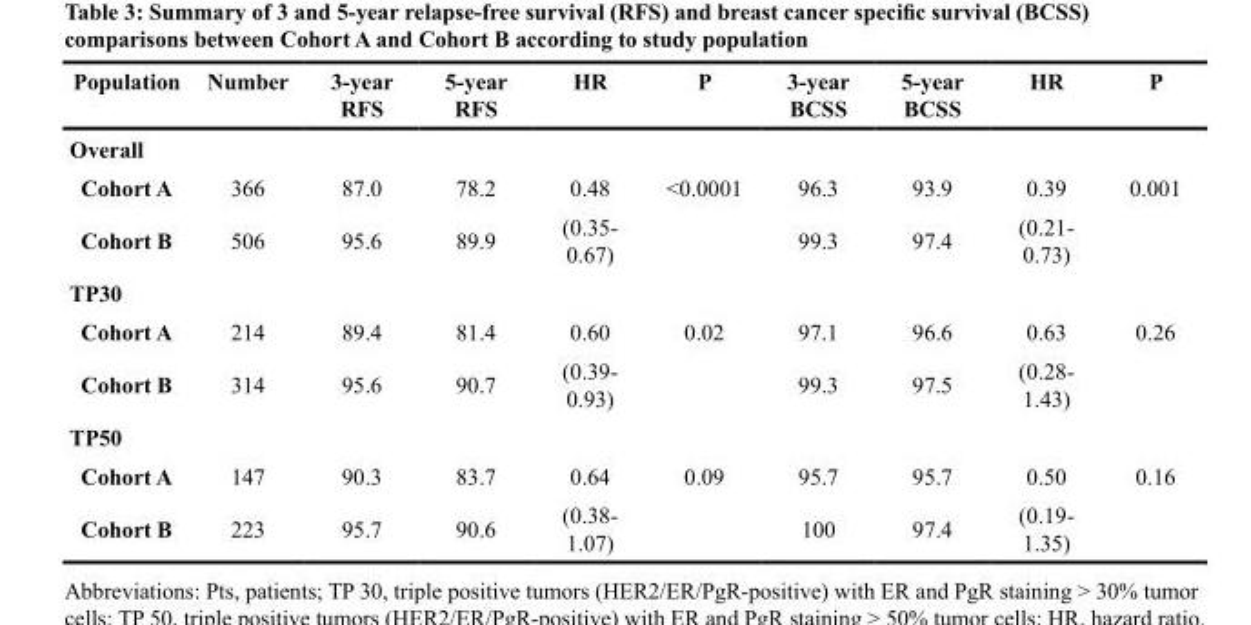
<table><thead><tr><td>Population</td><td>Number</td><td>3-year RFS</td><td>5-year RFS</td><td>HR</td><td>P</td><td>3-year BCSS</td><td>5-year BCSS</td><td>HR</td><td>P</td></tr></thead><tbody><tr><td colspan="10">Overall</td></tr><tr><td>Cohort A</td><td>366</td><td>87.0</td><td>78.2</td><td>0.48</td><td>&lt;0.0001</td><td>96.3</td><td>93.9</td><td>0.39</td><td>0.001</td></tr><tr><td>Cohort B</td><td>506</td><td>95.6</td><td>89.9</td><td>(0.35- 0.67)</td><td></td><td>99.3</td><td>97.4</td><td>(0.21- 0.73)</td><td></td></tr><tr><td colspan="10">TP30</td></tr><tr><td>Cohort A</td><td>214</td><td>89.4</td><td>81.4</td><td>0.60</td><td>0.02</td><td>97.1</td><td>96.6</td><td>0.63</td><td>0.26</td></tr><tr><td>Cohort B</td><td>314</td><td>95.6</td><td>90.7</td><td>(0.39- 0.93)</td><td></td><td>99.3</td><td>97.5</td><td>(0.28- 1.43)</td><td></td></tr><tr><td colspan="10">TP50</td></tr><tr><td>Cohort A</td><td>147</td><td>90.3</td><td>83.7</td><td>0.64</td><td>0.09</td><td>95.7</td><td>95.7</td><td>0.50</td><td>0.16</td></tr><tr><td>Cohort B</td><td>223</td><td>95.7</td><td>90.6</td><td>(0.38- 1.07)</td><td></td><td>100</td><td>97.4</td><td>(0.19- 1.35)</td><td></td></tr></tbody></table>